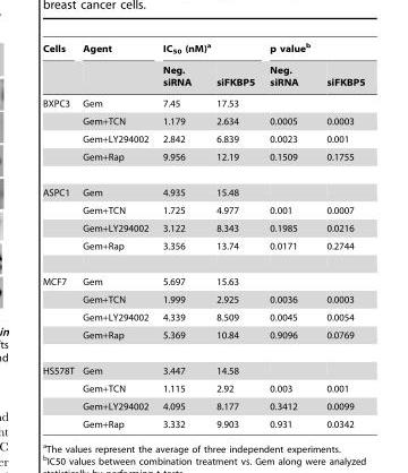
<table><thead><tr><td rowspan="2">Cells</td><td rowspan="2">Agent</td><td colspan="2">IC<sub>50</sub> (nM)<sup>a</sup></td><td colspan="2">p value<sup>b</sup></td></tr><tr><td>Neg. siRNA</td><td>siFKBP5</td><td>Neg. siRNA</td><td>siFKBP5</td></tr></thead><tbody><tr><td rowspan="4">BXPC3</td><td>Gem</td><td>7.45</td><td>17.53</td><td></td><td></td></tr><tr><td>Gem+TCN</td><td>1.179</td><td>2.634</td><td>0.0005</td><td>0.0003</td></tr><tr><td>Gem+LY294002</td><td>2.842</td><td>6.839</td><td>0.0023</td><td>0.001</td></tr><tr><td>Gem+Rap</td><td>9.956</td><td>12.19</td><td>0.1509</td><td>0.1755</td></tr><tr><td rowspan="4">ASPC1</td><td>Gem</td><td>4.935</td><td>15.48</td><td></td><td></td></tr><tr><td>Gem+TCN</td><td>1.725</td><td>4.977</td><td>0.001</td><td>0.0007</td></tr><tr><td>Gem+LY294002</td><td>3.122</td><td>8.343</td><td>0.1985</td><td>0.0216</td></tr><tr><td>Gem+Rap</td><td>3.356</td><td>13.74</td><td>0.0171</td><td>0.2744</td></tr><tr><td rowspan="4">MCF7</td><td>Gem</td><td>5.697</td><td>15.63</td><td></td><td></td></tr><tr><td>Gem+TCN</td><td>1.999</td><td>2.925</td><td>0.0036</td><td>0.0003</td></tr><tr><td>Gem+LY294002</td><td>4.339</td><td>8.509</td><td>0.0045</td><td>0.0054</td></tr><tr><td>Gem+Rap</td><td>5.369</td><td>10.84</td><td>0.9096</td><td>0.0769</td></tr><tr><td rowspan="4">HS578T</td><td>Gem</td><td>3.447</td><td>14.58</td><td></td><td></td></tr><tr><td>Gem+TCN</td><td>1.115</td><td>2.92</td><td>0.003</td><td>0.001</td></tr><tr><td>Gem+LY294002</td><td>4.095</td><td>8.177</td><td>0.3412</td><td>0.0099</td></tr><tr><td>Gem+Rap</td><td>3.332</td><td>9.903</td><td>0.931</td><td>0.0342</td></tr></tbody></table>